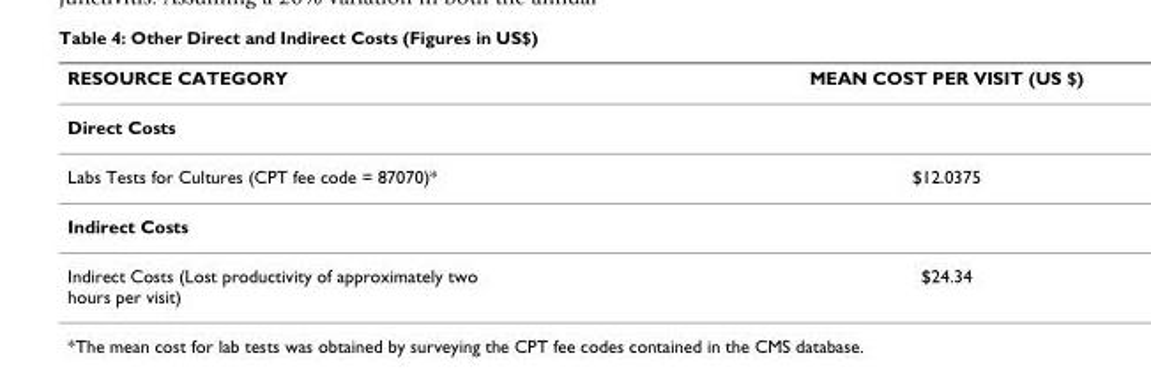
<table><thead><tr><td>RESOURCE CATEGORY</td><td>MEAN COST PER VISIT (US $)</td></tr></thead><tbody><tr><td colspan="2">Direct Costs</td></tr><tr><td>Labs Tests for Cultures (CPT fee code = 87070)*</td><td>$12.0375</td></tr><tr><td colspan="2">Indirect Costs</td></tr><tr><td>Indirect Costs (Lost productivity of approximately two hours per visit)</td><td>$24.34</td></tr></tbody></table>